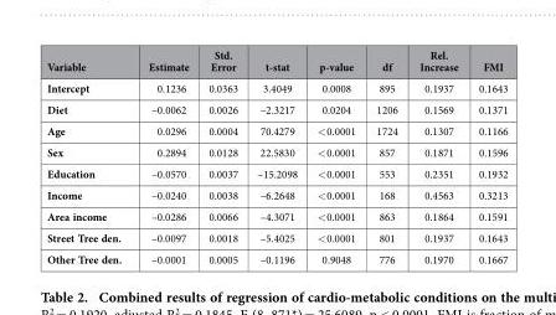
<table><thead><tr><td>Variable</td><td>Estimate</td><td>Std. Error</td><td>t-stat</td><td>p-value</td><td>df</td><td>Rel. Increase</td><td>FMI</td></tr></thead><tbody><tr><td>Intercept</td><td>0.1236</td><td>0.0363</td><td>3.4049</td><td>0.0008</td><td>895</td><td>0.1937</td><td>0.1643</td></tr><tr><td>Diet</td><td>–0.0062</td><td>0.0026</td><td>–2.3217</td><td>0.0204</td><td>1206</td><td>0.1569</td><td>0.1371</td></tr><tr><td>Age</td><td>0.0296</td><td>0.0004</td><td>70.4279</td><td>&lt; 0.0001</td><td>1724</td><td>0.1307</td><td>0.1166</td></tr><tr><td>Sex</td><td>0.2894</td><td>0.0128</td><td>22.5830</td><td>&lt; 0.0001</td><td>857</td><td>0.1871</td><td>0.1596</td></tr><tr><td>Education</td><td>–0.0570</td><td>0.0037</td><td>–15.2098</td><td>&lt; 0.0001</td><td>553</td><td>0.2351</td><td>0.1932</td></tr><tr><td>Income</td><td>–0.0240</td><td>0.0038</td><td>–6.2648</td><td>&lt; 0.0001</td><td>168</td><td>0.4563</td><td>0.3213</td></tr><tr><td>Area income</td><td>–0.0286</td><td>0.0066</td><td>–4.3071</td><td>&lt; 0.0001</td><td>863</td><td>0.1864</td><td>0.1591</td></tr><tr><td>Street Tree den.</td><td>–0.0097</td><td>0.0018</td><td>–5.4025</td><td>&lt; 0.0001</td><td>801</td><td>0.1937</td><td>0.1643</td></tr><tr><td>Other Tree den.</td><td>–0.0001</td><td>0.0005</td><td>–0.1196</td><td>0.9048</td><td>776</td><td>0.1970</td><td>0.1667</td></tr></tbody></table>